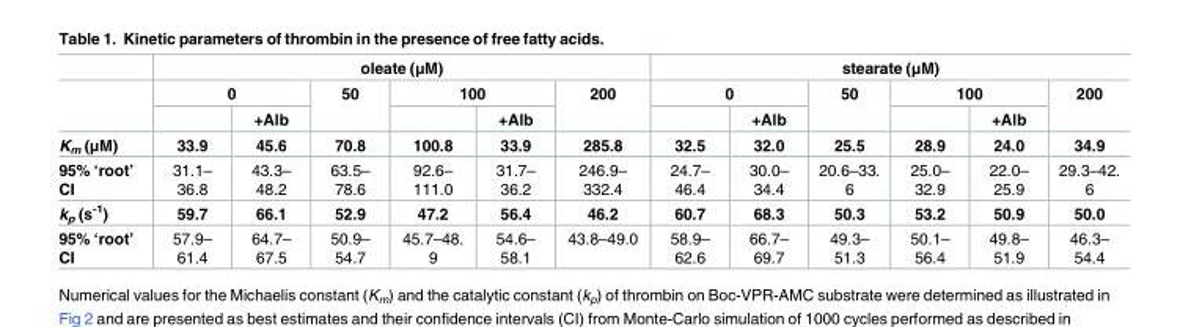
<table><thead><tr><td rowspan="3"></td><td colspan="6">oleate (μM)</td><td colspan="6">stearate (μM)</td></tr><tr><td colspan="2">0</td><td rowspan="2">50</td><td colspan="2">100</td><td rowspan="2">200</td><td colspan="2">0</td><td rowspan="2">50</td><td colspan="2">100</td><td rowspan="2">200</td></tr><tr><td></td><td>+Alb</td><td></td><td>+Alb</td><td></td><td>+Alb</td><td></td><td>+Alb</td></tr></thead><tbody><tr><td>K<sub>m</sub> (μM)</td><td>33.9</td><td>45.6</td><td>70.8</td><td>100.8</td><td>33.9</td><td>285.8</td><td>32.5</td><td>32.0</td><td>25.5</td><td>28.9</td><td>24.0</td><td>34.9</td></tr><tr><td>95% ‘root’ CI</td><td>31.1– 36.8</td><td>43.3– 48.2</td><td>63.5– 78.6</td><td>92.6– 111.0</td><td>31.7– 36.2</td><td>246.9– 332.4</td><td>24.7– 46.4</td><td>30.0– 34.4</td><td>20.6–33. 6</td><td>25.0– 32.9</td><td>22.0– 25.9</td><td>29.3–42. 6</td></tr><tr><td>k<sub>p</sub> (s<sup>-1</sup>)</td><td>59.7</td><td>66.1</td><td>52.9</td><td>47.2</td><td>56.4</td><td>46.2</td><td>60.7</td><td>68.3</td><td>50.3</td><td>53.2</td><td>50.9</td><td>50.0</td></tr><tr><td>95% ‘root’ CI</td><td>57.9– 61.4</td><td>64.7– 67.5</td><td>50.9– 54.7</td><td>45.7–48. 9</td><td>54.6– 58.1</td><td>43.8–49.0</td><td>58.9– 62.6</td><td>66.7– 69.7</td><td>49.3– 51.3</td><td>50.1– 56.4</td><td>49.8– 51.9</td><td>46.3– 54.4</td></tr></tbody></table>